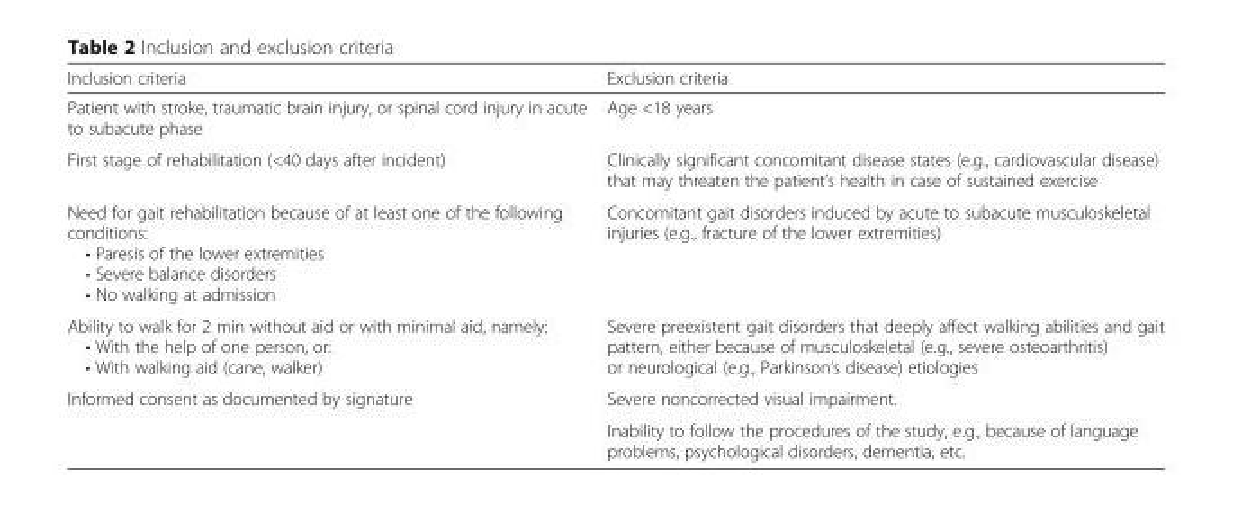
<table><thead><tr><td>Inclusion criteria</td><td>Exclusion criteria</td></tr></thead><tbody><tr><td>Patient with stroke, traumatic brain injury, or spinal cord injury in acute to subacute phase</td><td>Age &lt;18 years</td></tr><tr><td>First stage of rehabilitation (&lt;40 days after incident)</td><td>Clinically significant concomitant disease states (e.g., cardiovascular disease) that may threaten the patient’s health in case of sustained exercise</td></tr><tr><td>Need for gait rehabilitation because of at least one of the following conditions: • Paresis of the lower extremities • Severe balance disorders • No walking at admission</td><td>Concomitant gait disorders induced by acute to subacute musculoskeletal injuries (e.g., fracture of the lower extremities)</td></tr><tr><td>Ability to walk for 2 min without aid or with minimal aid, namely: • With the help of one person, or: • With walking aid (cane, walker)</td><td>Severe preexistent gait disorders that deeply affect walking abilities and gait pattern, either because of musculoskeletal (e.g., severe osteoarthritis) or neurological (e.g., Parkinson’s disease) etiologies</td></tr><tr><td rowspan="2">Informed consent as documented by signature</td><td>Severe noncorrected visual impairment.</td></tr><tr><td>Inability to follow the procedures of the study, e.g., because of language problems, psychological disorders, dementia, etc.</td></tr></tbody></table>